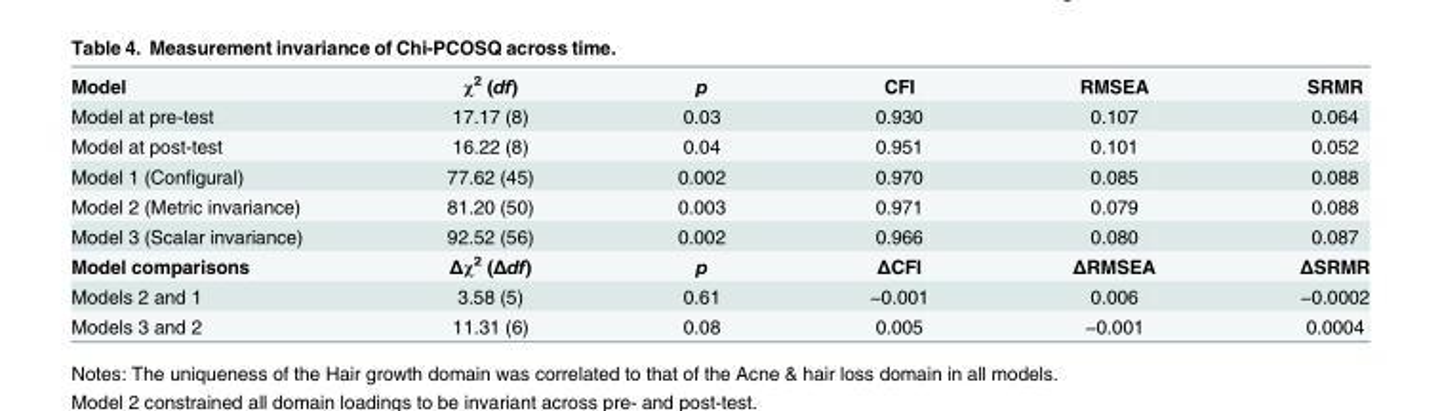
<table><tbody><tr><td>Model</td><td>χ<sup>2</sup> (df)</td><td>p</td><td>CFI</td><td>RMSEA</td><td>SRMR</td></tr><tr><td>Model at pre-test</td><td>17.17 (8)</td><td>0.03</td><td>0.930</td><td>0.107</td><td>0.064</td></tr><tr><td>Model at post-test</td><td>16.22 (8)</td><td>0.04</td><td>0.951</td><td>0.101</td><td>0.052</td></tr><tr><td>Model 1 (Configural)</td><td>77.62 (45)</td><td>0.002</td><td>0.970</td><td>0.085</td><td>0.088</td></tr><tr><td>Model 2 (Metric invariance)</td><td>81.20 (50)</td><td>0.003</td><td>0.971</td><td>0.079</td><td>0.088</td></tr><tr><td>Model 3 (Scalar invariance)</td><td>92.52 (56)</td><td>0.002</td><td>0.966</td><td>0.080</td><td>0.087</td></tr><tr><td>Model comparisons</td><td>Δχ<sup>2</sup> (Δdf)</td><td>p</td><td>ΔCFI</td><td>ΔRMSEA</td><td>ΔSRMR</td></tr><tr><td>Models 2 and 1</td><td>3.58 (5)</td><td>0.61</td><td>−0.001</td><td>0.006</td><td>−0.0002</td></tr><tr><td>Models 3 and 2</td><td>11.31 (6)</td><td>0.08</td><td>0.005</td><td>−0.001</td><td>0.0004</td></tr></tbody></table>